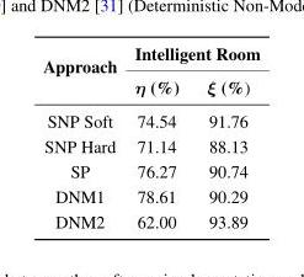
<table><thead><tr><td rowspan="2">Approach</td><td colspan="2">Intelligent Room</td></tr><tr><td>η (%)</td><td>ξ (%)</td></tr></thead><tbody><tr><td>SNP Soft</td><td>74.54</td><td>91.76</td></tr><tr><td>SNP Hard</td><td>71.14</td><td>88.13</td></tr><tr><td>SP</td><td>76.27</td><td>90.74</td></tr><tr><td>DNM1</td><td>78.61</td><td>90.29</td></tr><tr><td>DNM2</td><td>62.00</td><td>93.89</td></tr></tbody></table>